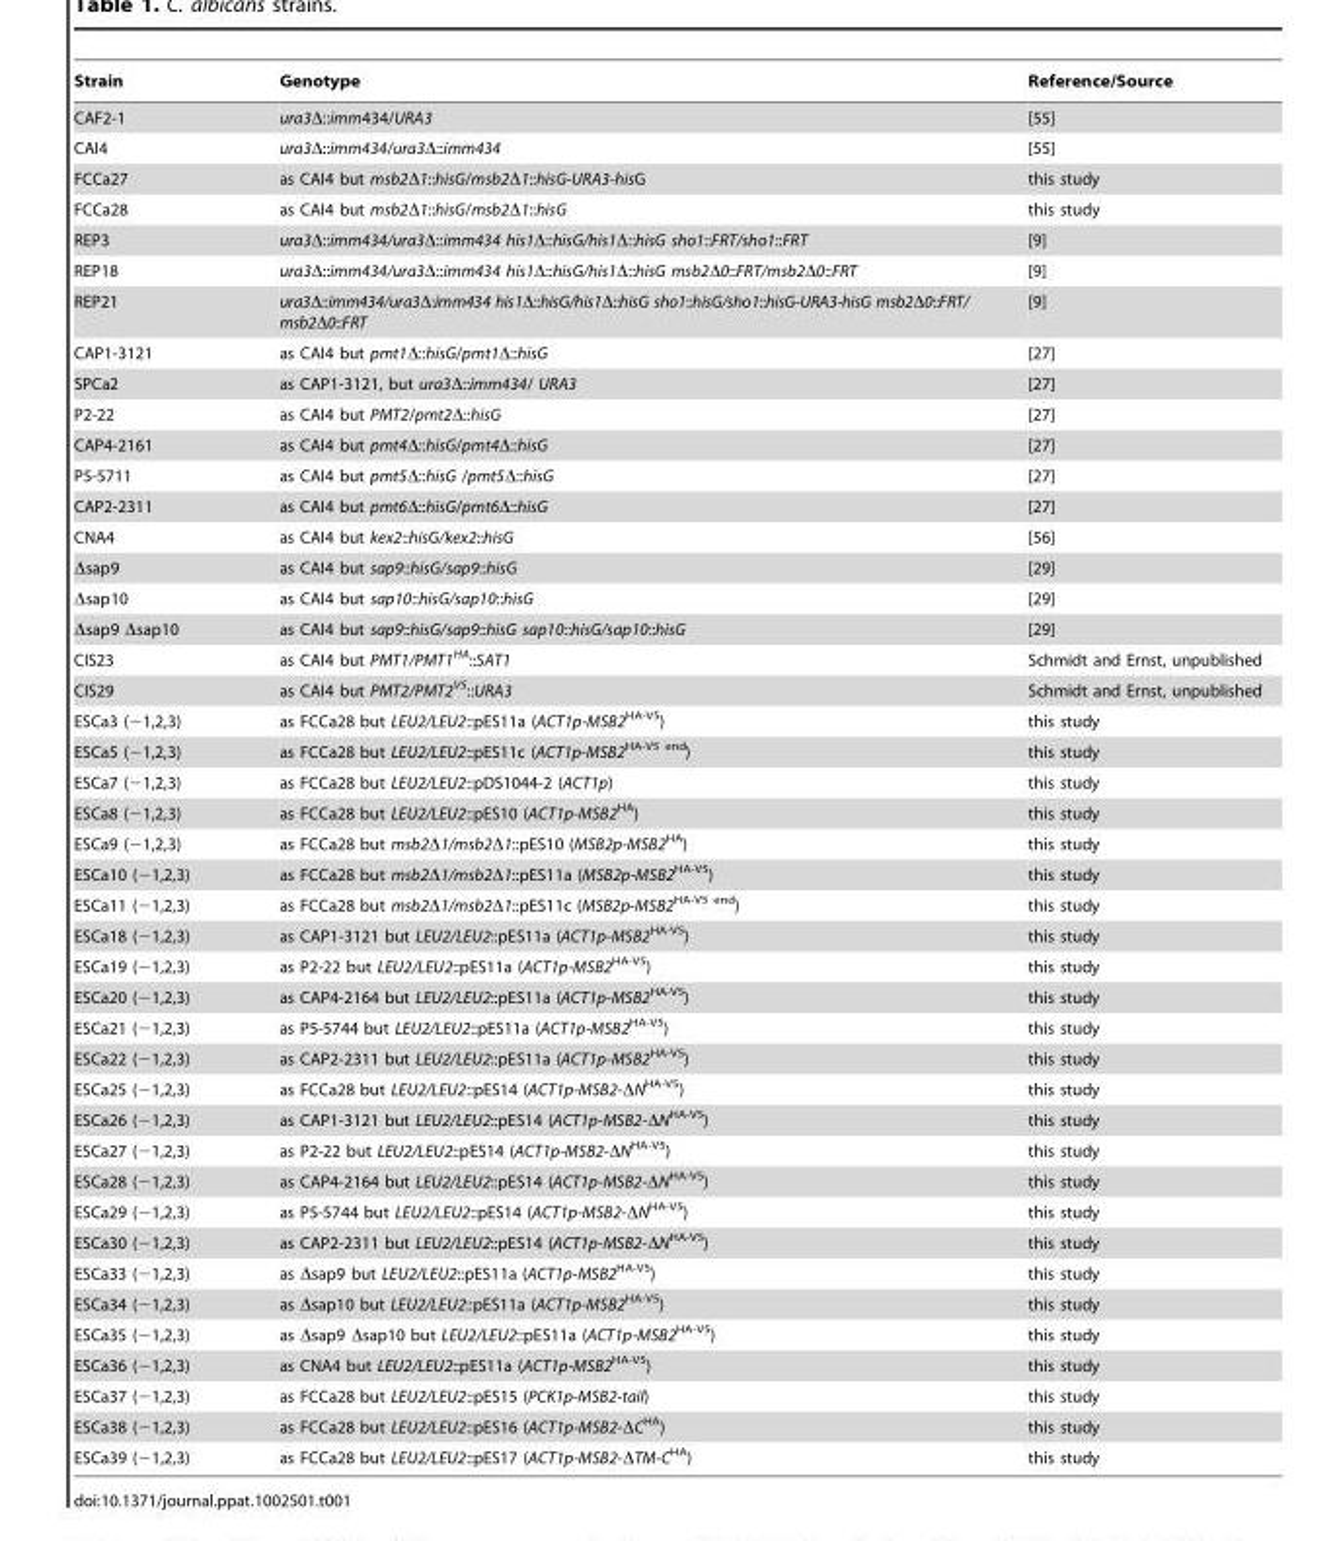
<table><thead><tr><td>Strain</td><td>Genotype</td><td>Reference/Source</td></tr></thead><tbody><tr><td>CAF2-1</td><td>ura3Δ::imm434/URA3</td><td>[55]</td></tr><tr><td>CAI4</td><td>ura3Δ::imm434/ura3Δ::imm434</td><td>[55]</td></tr><tr><td>FCCa27</td><td>as CAI4 but msb2Δ1::hisG/msb2Δ1::hisG-URA3-hisG</td><td>this study</td></tr><tr><td>FCCa28</td><td>as CAI4 but msb2Δ1::hisG/msb2Δ1::hisG</td><td>this study</td></tr><tr><td>REP3</td><td>ura3Δ::imm434/ura3Δ::imm434 his1Δ::hisG/his1Δ::hisG sho1::FRT/sho1::FRT</td><td>[9]</td></tr><tr><td>REP18</td><td>ura3Δ::imm434/ura3Δ::imm434 his1Δ::hisG/his1Δ::hisG msb2Δ0::FRT/msb2Δ0::FRT</td><td>[9]</td></tr><tr><td>REP21</td><td>ura3Δ::imm434/ura3Δ:imm434 his1Δ::hisG/his1Δ::hisG sho1::hisG/sho1::hisG-URA3-hisG msb2Δ0::FRT/ msb2Δ0::FRT</td><td>[9]</td></tr><tr><td>CAP1-3121</td><td>as CAI4 but pmt1Δ::hisG/pmt1Δ::hisG</td><td>[27]</td></tr><tr><td>SPCa2</td><td>as CAP1-3121, but ura3Δ::imm434/ URA3</td><td>[27]</td></tr><tr><td>P2-22</td><td>as CAI4 but PMT2/pmt2Δ::hisG</td><td>[27]</td></tr><tr><td>CAP4-2161</td><td>as CAI4 but pmt4Δ::hisG/pmt4Δ::hisG</td><td>[27]</td></tr><tr><td>P5-5711</td><td>as CAI4 but pmt5Δ::hisG /pmt5Δ::hisG</td><td>[27]</td></tr><tr><td>CAP2-2311</td><td>as CAI4 but pmt6Δ::hisG/pmt6Δ::hisG</td><td>[27]</td></tr><tr><td>CNA4</td><td>as CAI4 but kex2::hisG/kex2::hisG</td><td>[56]</td></tr><tr><td>Δsap9</td><td>as CAI4 but sap9::hisG/sap9::hisG</td><td>[29]</td></tr><tr><td>Δsap10</td><td>as CAI4 but sap10::hisG/sap10::hisG</td><td>[29]</td></tr><tr><td>Δsap9 Δsap10</td><td>as CAI4 but sap9::hisG/sap9::hisG sap10::hisG/sap10::hisG</td><td>[29]</td></tr><tr><td>CIS23</td><td>as CAI4 but PMT1/PMT1<sup>HA</sup>::SAT1</td><td>Schmidt and Ernst, unpublished</td></tr><tr><td>CIS29</td><td>as CAI4 but PMT2/PMT2<sup>V5</sup>::URA3</td><td>Schmidt and Ernst, unpublished</td></tr><tr><td>ESCa3 (−1,2,3)</td><td>as FCCa28 but LEU2/LEU2::pES11a (ACT1p-MSB2<sup>HA-V5</sup>)</td><td>this study</td></tr><tr><td>ESCa5 (−1,2,3)</td><td>as FCCa28 but LEU2/LEU2::pES11c (ACT1p-MSB2<sup>HA-V5 end</sup>)</td><td>this study</td></tr><tr><td>ESCa7 (−1,2,3)</td><td>as FCCa28 but LEU2/LEU2::pDS1044-2 (ACT1p)</td><td>this study</td></tr><tr><td>ESCa8 (−1,2,3)</td><td>as FCCa28 but LEU2/LEU2::pES10 (ACT1p-MSB2<sup>HA</sup>)</td><td>this study</td></tr><tr><td>ESCa9 (−1,2,3)</td><td>as FCCa28 but msb2Δ1/msb2Δ1::pES10 (MSB2p-MSB2<sup>HA</sup>)</td><td>this study</td></tr><tr><td>ESCa10 (−1,2,3)</td><td>as FCCa28 but msb2Δ1/msb2Δ1::pES11a (MSB2p-MSB2<sup>HA-V5</sup>)</td><td>this study</td></tr><tr><td>ESCa11 (−1,2,3)</td><td>as FCCa28 but msb2Δ1/msb2Δ1::pES11c (MSB2p-MSB2<sup>HA-V5 end</sup>)</td><td>this study</td></tr><tr><td>ESCa18 (−1,2,3)</td><td>as CAP1-3121 but LEU2/LEU2::pES11a (ACT1p-MSB2<sup>HA-V5</sup>)</td><td>this study</td></tr><tr><td>ESCa19 (−1,2,3)</td><td>as P2-22 but LEU2/LEU2::pES11a (ACT1p-MSB2<sup>HA-V5</sup>)</td><td>this study</td></tr><tr><td>ESCa20 (−1,2,3)</td><td>as CAP4-2164 but LEU2/LEU2::pES11a (ACT1p-MSB2<sup>HA-V5</sup>)</td><td>this study</td></tr><tr><td>ESCa21 (−1,2,3)</td><td>as P5-5744 but LEU2/LEU2::pES11a (ACT1p-MSB2<sup>HA-V5</sup>)</td><td>this study</td></tr><tr><td>ESCa22 (−1,2,3)</td><td>as CAP2-2311 but LEU2/LEU2::pES11a (ACT1p-MSB2<sup>HA-V5</sup>)</td><td>this study</td></tr><tr><td>ESCa25 (−1,2,3)</td><td>as FCCa28 but LEU2/LEU2::pES14 (ACT1p-MSB2-ΔN<sup>HA-V5</sup>)</td><td>this study</td></tr><tr><td>ESCa26 (−1,2,3)</td><td>as CAP1-3121 but LEU2/LEU2::pES14 (ACT1p-MSB2-ΔN<sup>HA-V5</sup>)</td><td>this study</td></tr><tr><td>ESCa27 (−1,2,3)</td><td>as P2-22 but LEU2/LEU2::pES14 (ACT1p-MSB2-ΔN<sup>HA-V5</sup>)</td><td>this study</td></tr><tr><td>ESCa28 (−1,2,3)</td><td>as CAP4-2164 but LEU2/LEU2::pES14 (ACT1p-MSB2-ΔN<sup>HA-V5</sup>)</td><td>this study</td></tr><tr><td>ESCa29 (−1,2,3)</td><td>as P5-5744 but LEU2/LEU2::pES14 (ACT1p-MSB2-ΔN<sup>HA-V5</sup>)</td><td>this study</td></tr><tr><td>ESCa30 (−1,2,3)</td><td>as CAP2-2311 but LEU2/LEU2::pES14 (ACT1p-MSB2-ΔN<sup>HA-V5</sup>)</td><td>this study</td></tr><tr><td>ESCa33 (−1,2,3)</td><td>as Δsap9 but LEU2/LEU2::pES11a (ACT1p-MSB2<sup>HA-V5</sup>)</td><td>this study</td></tr><tr><td>ESCa34 (−1,2,3)</td><td>as Δsap10 but LEU2/LEU2::pES11a (ACT1p-MSB2<sup>HA-V5</sup>)</td><td>this study</td></tr><tr><td>ESCa35 (−1,2,3)</td><td>as Δsap9 Δsap10 but LEU2/LEU2::pES11a (ACT1p-MSB2<sup>HA-V5</sup>)</td><td>this study</td></tr><tr><td>ESCa36 (−1,2,3)</td><td>as CNA4 but LEU2/LEU2::pES11a (ACT1p-MSB2<sup>HA-V5</sup>)</td><td>this study</td></tr><tr><td>ESCa37 (−1,2,3)</td><td>as FCCa28 but LEU2/LEU2::pES15 (PCK1p-MSB2-tail)</td><td>this study</td></tr><tr><td>ESCa38 (−1,2,3)</td><td>as FCCa28 but LEU2/LEU2::pES16 (ACT1p-MSB2-ΔC<sup>HA</sup>)</td><td>this study</td></tr><tr><td>ESCa39 (−1,2,3)</td><td>as FCCa28 but LEU2/LEU2::pES17 (ACT1p-MSB2-ΔTM-C<sup>HA</sup>)</td><td>this study</td></tr></tbody></table>